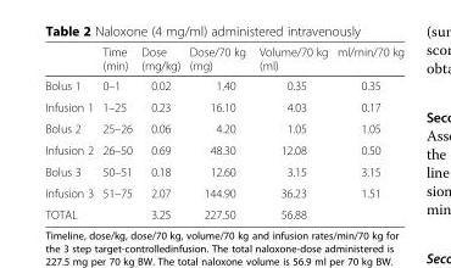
<table><thead><tr><td></td><td>Time (min)</td><td>Dose (mg/kg)</td><td>Dose/70 kg (mg)</td><td>Volume/70 kg (ml)</td><td>ml/min/70 kg</td></tr></thead><tbody><tr><td>Bolus 1</td><td>0–1</td><td>0.02</td><td>1.40</td><td>0.35</td><td>0.35</td></tr><tr><td>Infusion 1</td><td>1–25</td><td>0.23</td><td>16.10</td><td>4.03</td><td>0.17</td></tr><tr><td>Bolus 2</td><td>25–26</td><td>0.06</td><td>4.20</td><td>1.05</td><td>1.05</td></tr><tr><td>Infusion 2</td><td>26–50</td><td>0.69</td><td>48.30</td><td>12.08</td><td>0.50</td></tr><tr><td>Bolus 3</td><td>50–51</td><td>0.18</td><td>12.60</td><td>3.15</td><td>3.15</td></tr><tr><td>Infusion 3</td><td>51–75</td><td>2.07</td><td>144.90</td><td>36.23</td><td>1.51</td></tr><tr><td>TOTAL</td><td></td><td>3.25</td><td>227.50</td><td>56.88</td><td></td></tr></tbody></table>